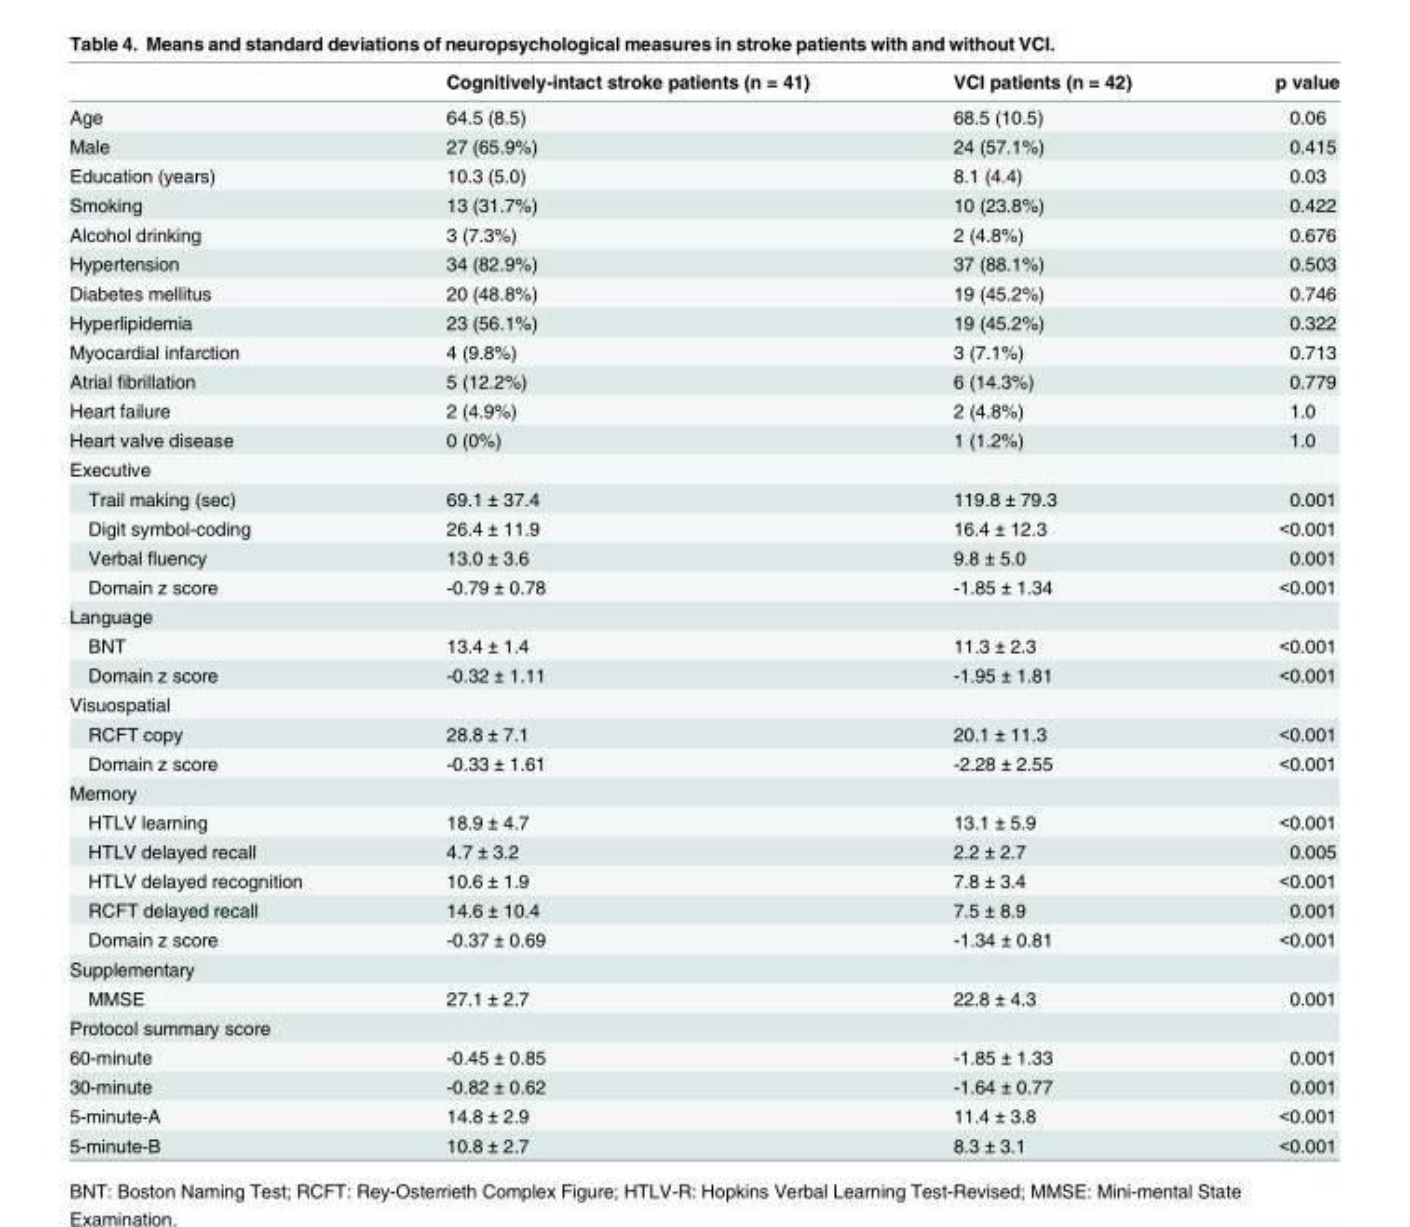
<table><thead><tr><td></td><td>Cognitively-intact stroke patients (n = 41)</td><td>VCI patients (n = 42)</td><td>p value</td></tr></thead><tbody><tr><td>Age</td><td>64.5 (8.5)</td><td>68.5 (10.5)</td><td>0.06</td></tr><tr><td>Male</td><td>27 (65.9%)</td><td>24 (57.1%)</td><td>0.415</td></tr><tr><td>Education (years)</td><td>10.3 (5.0)</td><td>8.1 (4.4)</td><td>0.03</td></tr><tr><td>Smoking</td><td>13 (31.7%)</td><td>10 (23.8%)</td><td>0.422</td></tr><tr><td>Alcohol drinking</td><td>3 (7.3%)</td><td>2 (4.8%)</td><td>0.676</td></tr><tr><td>Hypertension</td><td>34 (82.9%)</td><td>37 (88.1%)</td><td>0.503</td></tr><tr><td>Diabetes mellitus</td><td>20 (48.8%)</td><td>19 (45.2%)</td><td>0.746</td></tr><tr><td>Hyperlipidemia</td><td>23 (56.1%)</td><td>19 (45.2%)</td><td>0.322</td></tr><tr><td>Myocardial infarction</td><td>4 (9.8%)</td><td>3 (7.1%)</td><td>0.713</td></tr><tr><td>Atrial fibrillation</td><td>5 (12.2%)</td><td>6 (14.3%)</td><td>0.779</td></tr><tr><td>Heart failure</td><td>2 (4.9%)</td><td>2 (4.8%)</td><td>1.0</td></tr><tr><td>Heart valve disease</td><td>0 (0%)</td><td>1 (1.2%)</td><td>1.0</td></tr><tr><td colspan="4">Executive</td></tr><tr><td>Trail making (sec)</td><td>69.1 ± 37.4</td><td>119.8 ± 79.3</td><td>0.001</td></tr><tr><td>Digit symbol-coding</td><td>26.4 ± 11.9</td><td>16.4 ± 12.3</td><td>&lt;0.001</td></tr><tr><td>Verbal fluency</td><td>13.0 ± 3.6</td><td>9.8 ± 5.0</td><td>0.001</td></tr><tr><td>Domain z score</td><td>-0.79 ± 0.78</td><td>-1.85 ± 1.34</td><td>&lt;0.001</td></tr><tr><td colspan="4">Language</td></tr><tr><td>BNT</td><td>13.4 ± 1.4</td><td>11.3 ± 2.3</td><td>&lt;0.001</td></tr><tr><td>Domain z score</td><td>-0.32 ± 1.11</td><td>-1.95 ± 1.81</td><td>&lt;0.001</td></tr><tr><td colspan="4">Visuospatial</td></tr><tr><td>RCFT copy</td><td>28.8 ± 7.1</td><td>20.1 ± 11.3</td><td>&lt;0.001</td></tr><tr><td>Domain z score</td><td>-0.33 ± 1.61</td><td>-2.28 ± 2.55</td><td>&lt;0.001</td></tr><tr><td colspan="4">Memory</td></tr><tr><td>HTLV learning</td><td>18.9 ± 4.7</td><td>13.1 ± 5.9</td><td>&lt;0.001</td></tr><tr><td>HTLV delayed recall</td><td>4.7 ± 3.2</td><td>2.2 ± 2.7</td><td>0.005</td></tr><tr><td>HTLV delayed recognition</td><td>10.6 ± 1.9</td><td>7.8 ± 3.4</td><td>&lt;0.001</td></tr><tr><td>RCFT delayed recall</td><td>14.6 ± 10.4</td><td>7.5 ± 8.9</td><td>0.001</td></tr><tr><td>Domain z score</td><td>-0.37 ± 0.69</td><td>-1.34 ± 0.81</td><td>&lt;0.001</td></tr><tr><td colspan="4">Supplementary</td></tr><tr><td>MMSE</td><td>27.1 ± 2.7</td><td>22.8 ± 4.3</td><td>0.001</td></tr><tr><td colspan="4">Protocol summary score</td></tr><tr><td>60-minute</td><td>-0.45 ± 0.85</td><td>-1.85 ± 1.33</td><td>0.001</td></tr><tr><td>30-minute</td><td>-0.82 ± 0.62</td><td>-1.64 ± 0.77</td><td>0.001</td></tr><tr><td>5-minute-A</td><td>14.8 ± 2.9</td><td>11.4 ± 3.8</td><td>&lt;0.001</td></tr><tr><td>5-minute-B</td><td>10.8 ± 2.7</td><td>8.3 ± 3.1</td><td>&lt;0.001</td></tr></tbody></table>